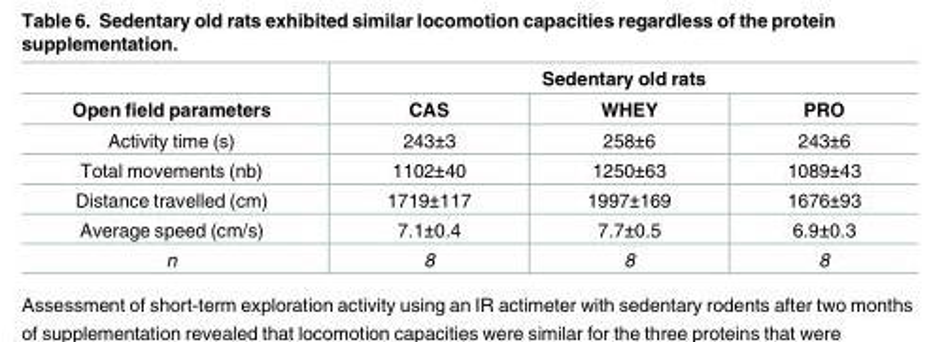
<table><thead><tr><td rowspan="2">Open field parameters</td><td colspan="3">Sedentary old rats</td></tr><tr><td>CAS</td><td>WHEY</td><td>PRO</td></tr></thead><tbody><tr><td>Activity time (s)</td><td>243±3</td><td>258±6</td><td>243±6</td></tr><tr><td>Total movements (nb)</td><td>1102±40</td><td>1250±63</td><td>1089±43</td></tr><tr><td>Distance travelled (cm)</td><td>1719±117</td><td>1997±169</td><td>1676±93</td></tr><tr><td>Average speed (cm/s)</td><td>7.1±0.4</td><td>7.7±0.5</td><td>6.9±0.3</td></tr><tr><td>n</td><td>8</td><td>8</td><td>8</td></tr></tbody></table>